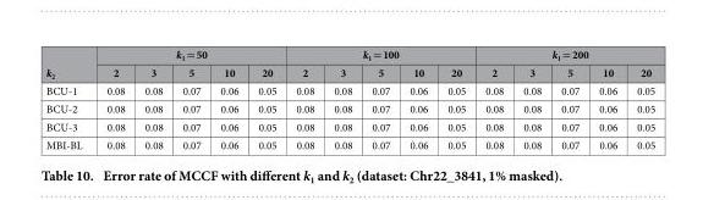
<table><thead><tr><td rowspan="2">k<sub>2</sub></td><td colspan="5">k<sub>1</sub> = 50</td><td colspan="5">k<sub>1</sub> = 100</td><td colspan="5">k<sub>1</sub> = 200</td></tr><tr><td>2</td><td>3</td><td>5</td><td>10</td><td>20</td><td>2</td><td>3</td><td>5</td><td>10</td><td>20</td><td>2</td><td>3</td><td>5</td><td>10</td><td>20</td></tr></thead><tbody><tr><td>BCU-1</td><td>0.08</td><td>0.08</td><td>0.07</td><td>0.06</td><td>0.05</td><td>0.08</td><td>0.08</td><td>0.07</td><td>0.06</td><td>0.05</td><td>0.08</td><td>0.08</td><td>0.07</td><td>0.06</td><td>0.05</td></tr><tr><td>BCU-2</td><td>0.08</td><td>0.08</td><td>0.07</td><td>0.06</td><td>0.05</td><td>0.08</td><td>0.08</td><td>0.07</td><td>0.06</td><td>0.05</td><td>0.08</td><td>0.08</td><td>0.07</td><td>0.06</td><td>0.05</td></tr><tr><td>BCU-3</td><td>0.08</td><td>0.08</td><td>0.07</td><td>0.06</td><td>0.05</td><td>0.08</td><td>0.08</td><td>0.07</td><td>0.06</td><td>0.05</td><td>0.08</td><td>0.08</td><td>0.07</td><td>0.06</td><td>0.05</td></tr><tr><td>MBI-BL</td><td>0.08</td><td>0.08</td><td>0.07</td><td>0.06</td><td>0.05</td><td>0.08</td><td>0.08</td><td>0.07</td><td>0.06</td><td>0.05</td><td>0.08</td><td>0.08</td><td>0.07</td><td>0.06</td><td>0.05</td></tr></tbody></table>